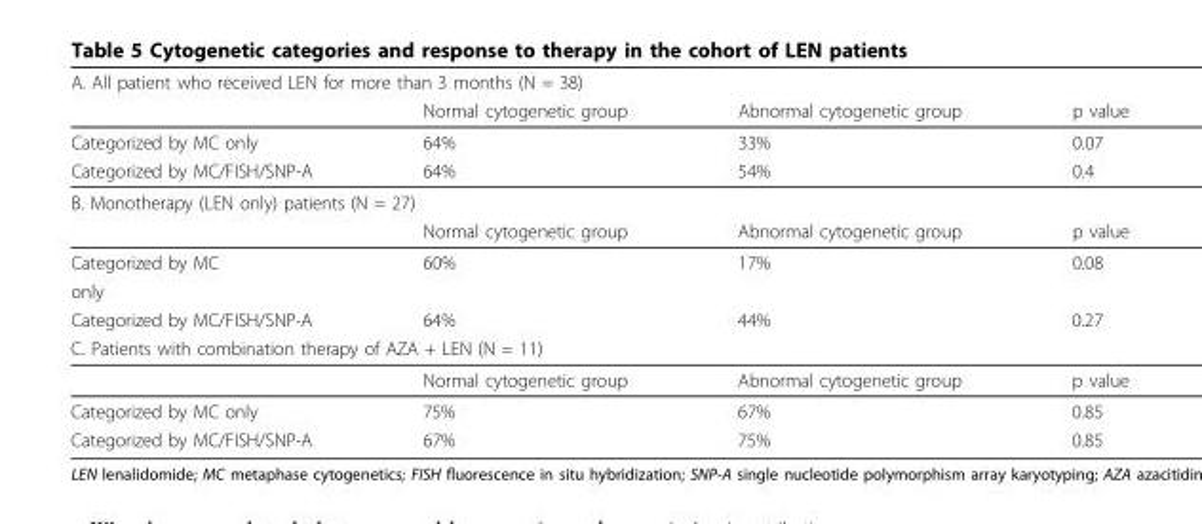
<table><thead><tr><td colspan="3">A. All patient who received LEN for more than 3 months (N = 38)</td><td rowspan="2">p value</td></tr><tr><td></td><td>Normal cytogenetic group</td><td>Abnormal cytogenetic group</td></tr></thead><tbody><tr><td>Categorized by MC only</td><td>64%</td><td>33%</td><td>0.07</td></tr><tr><td>Categorized by MC/FISH/SNP-A</td><td>64%</td><td>54%</td><td>0.4</td></tr><tr><td colspan="4">B. Monotherapy (LEN only) patients (N = 27)</td></tr><tr><td></td><td>Normal cytogenetic group</td><td>Abnormal cytogenetic group</td><td>p value</td></tr><tr><td>Categorized by MC</td><td>60%</td><td>17%</td><td>0.08</td></tr><tr><td colspan="4">only</td></tr><tr><td>Categorized by MC/FISH/SNP-A</td><td>64%</td><td>44%</td><td>0.27</td></tr><tr><td colspan="4">C. Patients with combination therapy of AZA + LEN (N = 11)</td></tr><tr><td></td><td>Normal cytogenetic group</td><td>Abnormal cytogenetic group</td><td>p value</td></tr><tr><td>Categorized by MC only</td><td>75%</td><td>67%</td><td>0.85</td></tr><tr><td>Categorized by MC/FISH/SNP-A</td><td>67%</td><td>75%</td><td>0.85</td></tr></tbody></table>